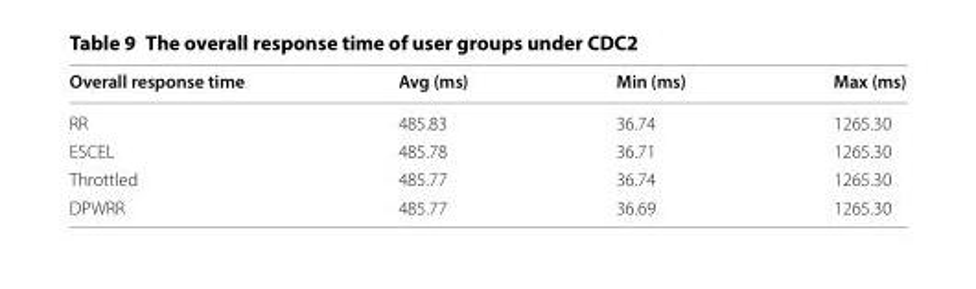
<table><thead><tr><td>Overall response time</td><td>Avg (ms)</td><td>Min (ms)</td><td>Max (ms)</td></tr></thead><tbody><tr><td>RR</td><td>485.83</td><td>36.74</td><td>1265.30</td></tr><tr><td>ESCEL</td><td>485.78</td><td>36.71</td><td>1265.30</td></tr><tr><td>Throttled</td><td>485.77</td><td>36.74</td><td>1265.30</td></tr><tr><td>DPWRR</td><td>485.77</td><td>36.69</td><td>1265.30</td></tr></tbody></table>